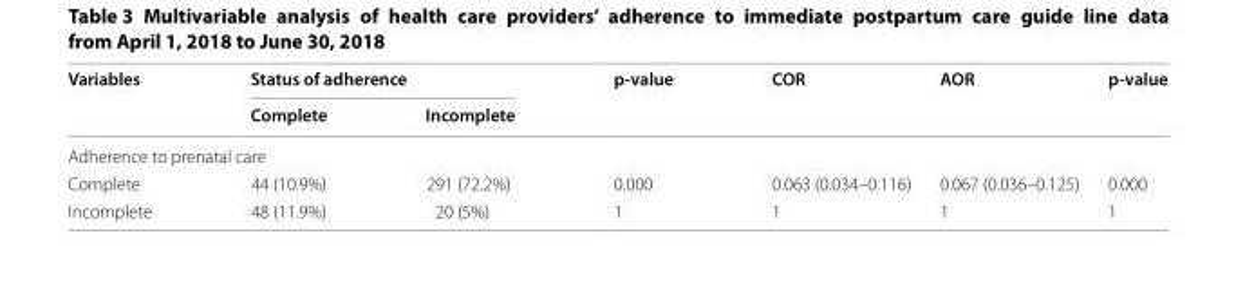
<table><thead><tr><td rowspan="2">Variables</td><td colspan="2">Status of adherence</td><td rowspan="2">p-value</td><td rowspan="2">COR</td><td rowspan="2">AOR</td><td rowspan="2">p-value</td></tr><tr><td>Complete</td><td>Incomplete</td></tr></thead><tbody><tr><td colspan="7">Adherence to prenatal care</td></tr><tr><td>Complete</td><td>44 (10.9%)</td><td>291 (72.2%)</td><td>0.000</td><td>0.063 (0.034–0.116)</td><td>0.067 (0.036–0.125)</td><td>0.000</td></tr><tr><td>Incomplete</td><td>48 (11.9%)</td><td>20 (5%)</td><td>1</td><td>1</td><td>1</td><td>1</td></tr></tbody></table>